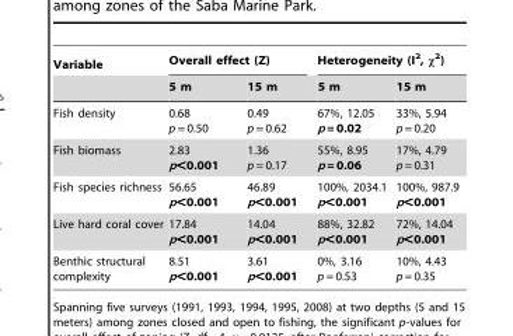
<table><thead><tr><td rowspan="2">Variable</td><td colspan="2">Overall effect (Z)</td><td colspan="2">Heterogeneity (I<sup>2</sup>, χ<sup>2</sup>)</td></tr><tr><td>5 m</td><td>15 m</td><td>5 m</td><td>15 m</td></tr></thead><tbody><tr><td>Fish density</td><td>0.68 p = 0.50</td><td>0.49 p = 0.62</td><td>67%, 12.05 p = 0.02</td><td>33%, 5.94 p = 0.20</td></tr><tr><td>Fish biomass</td><td>2.83 p&lt;0.001</td><td>1.36 p = 0.17</td><td>55%, 8.95 p = 0.06</td><td>17%, 4.79 p = 0.31</td></tr><tr><td>Fish species richness</td><td>56.65 p&lt;0.001</td><td>46.89 p&lt;0.001</td><td>100%, 2034.1 p&lt;0.001</td><td>100%, 987.9 p&lt;0.001</td></tr><tr><td>Live hard coral cover</td><td>17.84 p&lt;0.001</td><td>14.04 p&lt;0.001</td><td>88%, 32.82 p&lt;0.001</td><td>72%, 14.04 p&lt;0.001</td></tr><tr><td>Benthic structural complexity</td><td>8.51 p&lt;0.001</td><td>3.61 p&lt;0.001</td><td>0%, 3.16 p = 0.53</td><td>10%, 4.43 p = 0.35</td></tr></tbody></table>